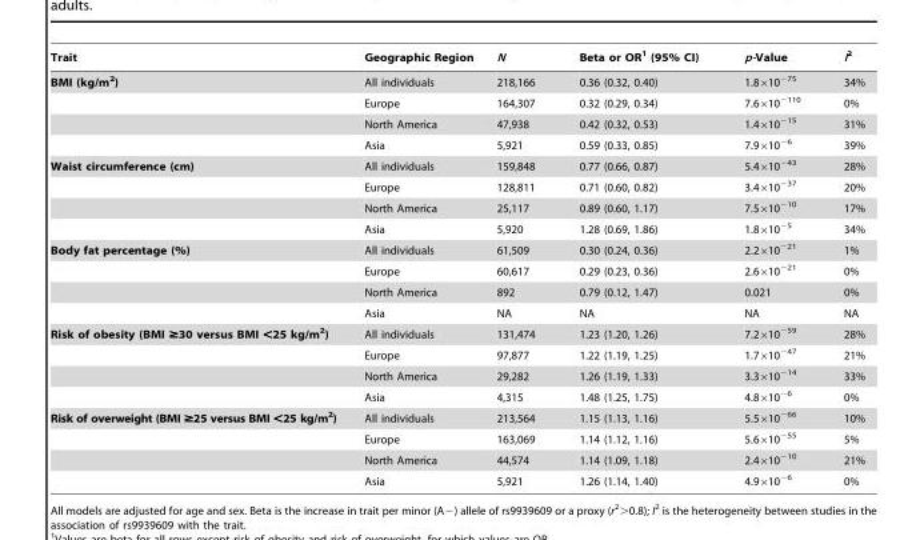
<table><thead><tr><td>Trait</td><td>Geographic Region</td><td>N</td><td>Beta or OR<sup>1</sup> (95% CI)</td><td>p-Value</td><td>I<sup>2</sup></td></tr></thead><tbody><tr><td rowspan="4">BMI (kg/m<sup>2</sup>)</td><td>All individuals</td><td>218,166</td><td>0.36 (0.32, 0.40)</td><td>1.8×10<sup>−75</sup></td><td>34%</td></tr><tr><td>Europe</td><td>164,307</td><td>0.32 (0.29, 0.34)</td><td>7.6×10<sup>−110</sup></td><td>0%</td></tr><tr><td>North America</td><td>47,938</td><td>0.42 (0.32, 0.53)</td><td>1.4×10<sup>−15</sup></td><td>31%</td></tr><tr><td>Asia</td><td>5,921</td><td>0.59 (0.33, 0.85)</td><td>7.9×10<sup>−6</sup></td><td>39%</td></tr><tr><td rowspan="4">Waist circumference (cm)</td><td>All individuals</td><td>159,848</td><td>0.77 (0.66, 0.87)</td><td>5.4×10<sup>−43</sup></td><td>28%</td></tr><tr><td>Europe</td><td>128,811</td><td>0.71 (0.60, 0.82)</td><td>3.4×10<sup>−37</sup></td><td>20%</td></tr><tr><td>North America</td><td>25,117</td><td>0.89 (0.60, 1.17)</td><td>7.5×10<sup>−10</sup></td><td>17%</td></tr><tr><td>Asia</td><td>5,920</td><td>1.28 (0.69, 1.86)</td><td>1.8×10<sup>−5</sup></td><td>34%</td></tr><tr><td rowspan="4">Body fat percentage (%)</td><td>All individuals</td><td>61,509</td><td>0.30 (0.24, 0.36)</td><td>2.2×10<sup>−21</sup></td><td>1%</td></tr><tr><td>Europe</td><td>60,617</td><td>0.29 (0.23, 0.36)</td><td>2.6×10<sup>−21</sup></td><td>0%</td></tr><tr><td>North America</td><td>892</td><td>0.79 (0.12, 1.47)</td><td>0.021</td><td>0%</td></tr><tr><td>Asia</td><td>NA</td><td>NA</td><td>NA</td><td>NA</td></tr><tr><td rowspan="4">Risk of obesity (BMI ≥30 versus BMI &lt;25 kg/m<sup>2</sup>)</td><td>All individuals</td><td>131,474</td><td>1.23 (1.20, 1.26)</td><td>7.2×10<sup>−59</sup></td><td>28%</td></tr><tr><td>Europe</td><td>97,877</td><td>1.22 (1.19, 1.25)</td><td>1.7×10<sup>−47</sup></td><td>21%</td></tr><tr><td>North America</td><td>29,282</td><td>1.26 (1.19, 1.33)</td><td>3.3×10<sup>−14</sup></td><td>33%</td></tr><tr><td>Asia</td><td>4,315</td><td>1.48 (1.25, 1.75)</td><td>4.8×10<sup>−6</sup></td><td>0%</td></tr><tr><td rowspan="4">Risk of overweight (BMI ≥25 versus BMI &lt;25 kg/m<sup>2</sup>)</td><td>All individuals</td><td>213,564</td><td>1.15 (1.13, 1.16)</td><td>5.5×10<sup>−66</sup></td><td>10%</td></tr><tr><td>Europe</td><td>163,069</td><td>1.14 (1.12, 1.16)</td><td>5.6×10<sup>−55</sup></td><td>5%</td></tr><tr><td>North America</td><td>44,574</td><td>1.14 (1.09, 1.18)</td><td>2.4×10<sup>−10</sup></td><td>21%</td></tr><tr><td>Asia</td><td>5,921</td><td>1.26 (1.14, 1.40)</td><td>4.9×10<sup>−6</sup></td><td>0%</td></tr></tbody></table>